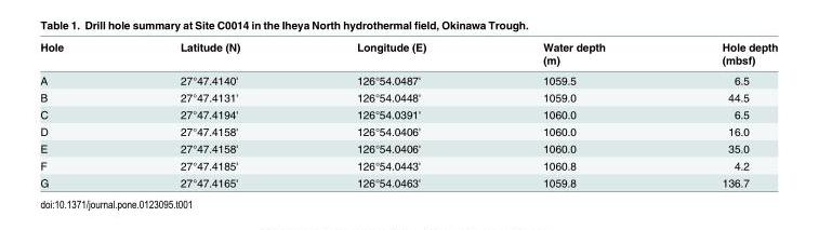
<table><thead><tr><td rowspan="2">Hole</td><td rowspan="2">Latitude (N)</td><td rowspan="2">Longitude (E)</td><td rowspan="2">Water depth (m)</td><td rowspan="2">Hole depth (mbsf)</td></tr><tr></tr></thead><tbody><tr><td>A</td><td>27°47.4140&#x27;</td><td>126°54.0487&#x27;</td><td>1059.5</td><td>6.5</td></tr><tr><td>B</td><td>27°47.4131&#x27;</td><td>126°54.0448&#x27;</td><td>1059.0</td><td>44.5</td></tr><tr><td>C</td><td>27°47.4194&#x27;</td><td>126°54.0391&#x27;</td><td>1060.0</td><td>6.5</td></tr><tr><td>D</td><td>27°47.4158&#x27;</td><td>126°54.0406&#x27;</td><td>1060.0</td><td>16.0</td></tr><tr><td>E</td><td>27°47.4158&#x27;</td><td>126°54.0406&#x27;</td><td>1060.0</td><td>35.0</td></tr><tr><td>F</td><td>27°47.4185&#x27;</td><td>126°54.0443&#x27;</td><td>1060.8</td><td>4.2</td></tr><tr><td>G</td><td>27°47.4165&#x27;</td><td>126°54.0463&#x27;</td><td>1059.8</td><td>136.7</td></tr></tbody></table>